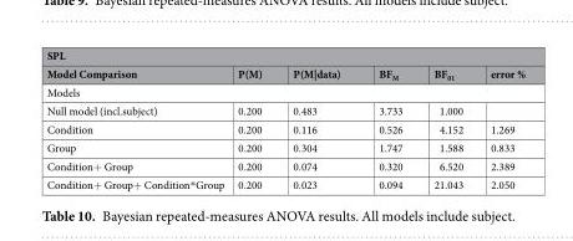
<table><thead><tr><td colspan="6">SPL</td></tr><tr><td>Model Comparison</td><td>P(M)</td><td>P(M|data)</td><td>BF<sub>M</sub></td><td>BF<sub>01</sub></td><td>error %</td></tr></thead><tbody><tr><td colspan="6">Models</td></tr><tr><td>Null model (incl.subject)</td><td>0.200</td><td>0.483</td><td>3.733</td><td>1.000</td><td></td></tr><tr><td>Condition</td><td>0.200</td><td>0.116</td><td>0.526</td><td>4.152</td><td>1.269</td></tr><tr><td>Group</td><td>0.200</td><td>0.304</td><td>1.747</td><td>1.588</td><td>0.833</td></tr><tr><td>Condition+ Group</td><td>0.200</td><td>0.074</td><td>0.320</td><td>6.520</td><td>2.389</td></tr><tr><td>Condition+ Group+ Condition*Group</td><td>0.200</td><td>0.023</td><td>0.094</td><td>21.043</td><td>2.050</td></tr></tbody></table>